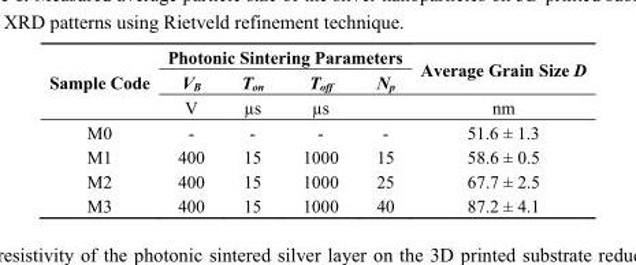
<table><thead><tr><td rowspan="3">Sample Code</td><td colspan="4">Photonic Sintering Parameters</td><td rowspan="3">Average Grain Size D nm</td></tr><tr><td rowspan="2">V<sub>B</sub> V</td><td rowspan="2">T<sub>on</sub> µs</td><td rowspan="2">T<sub>off</sub> µs</td><td rowspan="2">N<sub>p</sub></td></tr><tr></tr></thead><tbody><tr><td>M0</td><td>-</td><td>-</td><td>-</td><td>-</td><td>51.6 ± 1.3</td></tr><tr><td>M1</td><td>400</td><td>15</td><td>1000</td><td>15</td><td>58.6 ± 0.5</td></tr><tr><td>M2</td><td>400</td><td>15</td><td>1000</td><td>25</td><td>67.7 ± 2.5</td></tr><tr><td>M3</td><td>400</td><td>15</td><td>1000</td><td>40</td><td>87.2 ± 4.1</td></tr></tbody></table>